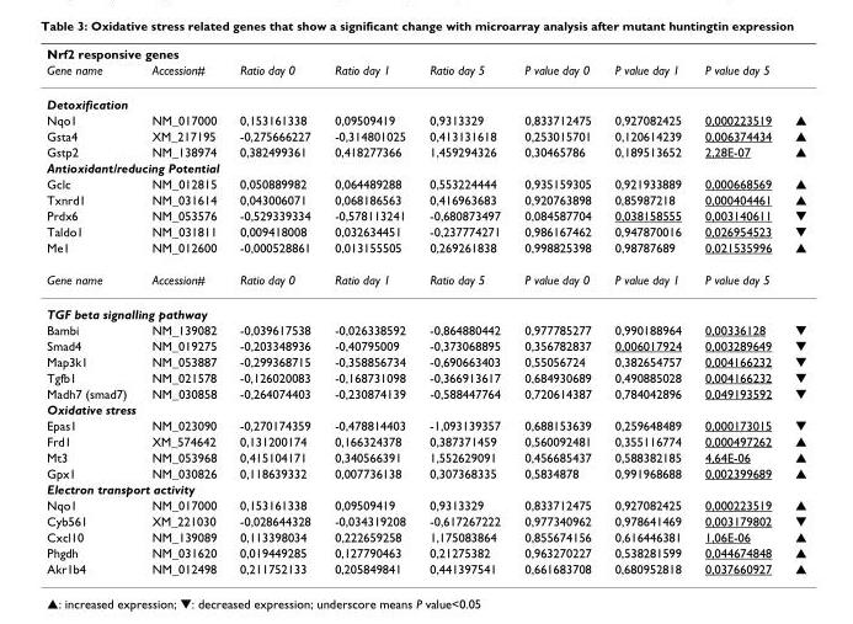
<table><thead><tr><td colspan="9">Nrf2 responsive genes</td></tr><tr><td>Gene name</td><td>Accession#</td><td>Ratio day 0</td><td>Ratio day 1</td><td>Ratio day 5</td><td>P value day 0</td><td>P value day 1</td><td>P value day 5</td><td></td></tr></thead><tbody><tr><td colspan="9">Detoxification</td></tr><tr><td>Nqo1</td><td>NM_017000</td><td>0,153161338</td><td>0,09509419</td><td>0,9313329</td><td>0,833712475</td><td>0,927082425</td><td>0,000223519</td><td>▲</td></tr><tr><td>Gsta4</td><td>XM_217195</td><td>-0,275666227</td><td>-0,314801025</td><td>0,413131618</td><td>0,253015701</td><td>0,120614239</td><td>0,006374434</td><td>▲</td></tr><tr><td>Gstp2</td><td>NM_138974</td><td>0,382499361</td><td>0,418277366</td><td>1,459294326</td><td>0,30465786</td><td>0,189513652</td><td>2,28E-07</td><td>▲</td></tr><tr><td colspan="9">Antioxidant/reducing Potential</td></tr><tr><td>Gclc</td><td>NM_012815</td><td>0,050889982</td><td>0,064489288</td><td>0,553224444</td><td>0,935159305</td><td>0,921933889</td><td>0,000668569</td><td>▲</td></tr><tr><td>Txnrd1</td><td>NM_031614</td><td>0,043006071</td><td>0,068186563</td><td>0,416963683</td><td>0,920763898</td><td>0,85987218</td><td>0,000404461</td><td>▲</td></tr><tr><td>Prdx6</td><td>NM_053576</td><td>-0,529339334</td><td>-0,578113241</td><td>-0,680873497</td><td>0,084587704</td><td>0,038158555</td><td>0,003140611</td><td>▼</td></tr><tr><td>Taldo1</td><td>NM_031811</td><td>0,009418008</td><td>0,032634451</td><td>-0,237774271</td><td>0,986167462</td><td>0,947870016</td><td>0,026954523</td><td>▼</td></tr><tr><td>Me1</td><td>NM_012600</td><td>-0,000528861</td><td>0,013155505</td><td>0,269261838</td><td>0,998825398</td><td>0,98787689</td><td>0,021535996</td><td>▲</td></tr><tr><td>Gene name</td><td>Accession#</td><td>Ratio day 0</td><td>Ratio day 1</td><td>Ratio day 5</td><td>P value day 0</td><td>P value day 1</td><td>P value day 5</td><td></td></tr><tr><td colspan="9">TGF beta signalling pathway</td></tr><tr><td>Bambi</td><td>NM_139082</td><td>-0,039617538</td><td>-0,026338592</td><td>-0,864880442</td><td>0,977785277</td><td>0,990188964</td><td>0,00336128</td><td>▼</td></tr><tr><td>Smad4</td><td>NM_019275</td><td>-0,203348936</td><td>-0,40795009</td><td>-0,373068895</td><td>0,356782837</td><td>0,006017924</td><td>0,003289649</td><td>▼</td></tr><tr><td>Map3k1</td><td>NM_053887</td><td>-0,299368715</td><td>-0,358856734</td><td>-0,690663403</td><td>0,55056724</td><td>0,382654757</td><td>0,004166232</td><td>▼</td></tr><tr><td>Tgfb1</td><td>NM_021578</td><td>-0,126020083</td><td>-0,168731098</td><td>-0,366913617</td><td>0,684930689</td><td>0,490885028</td><td>0,004166232</td><td>▼</td></tr><tr><td>Madh7 (smad7)</td><td>NM_030858</td><td>-0,264074403</td><td>-0,230874139</td><td>-0,588447764</td><td>0,720614387</td><td>0,784042896</td><td>0,049193592</td><td>▼</td></tr><tr><td colspan="9">Oxidative stress</td></tr><tr><td>Epas1</td><td>NM_023090</td><td>-0,270174359</td><td>-0,478814403</td><td>-1,093139357</td><td>0,688153639</td><td>0,259648489</td><td>0,000173015</td><td>▼</td></tr><tr><td>Frd1</td><td>XM_574642</td><td>0,131200174</td><td>0,166324378</td><td>0,387371459</td><td>0,560092481</td><td>0,355116774</td><td>0,000497262</td><td>▲</td></tr><tr><td>Mt3</td><td>NM_053968</td><td>0,415104171</td><td>0,340566391</td><td>1,552629091</td><td>0,456685437</td><td>0,588382185</td><td>4,64E-06</td><td>▲</td></tr><tr><td>Gpx1</td><td>NM_030826</td><td>0,118639332</td><td>0,007736138</td><td>0,307368335</td><td>0,5834878</td><td>0,991968688</td><td>0,002399689</td><td>▲</td></tr><tr><td colspan="9">Electron transport activity</td></tr><tr><td>Nqo1</td><td>NM_017000</td><td>0,153161338</td><td>0,09509419</td><td>0,9313329</td><td>0,833712475</td><td>0,927082425</td><td>0,000223519</td><td>▲</td></tr><tr><td>Cyb561</td><td>XM_221030</td><td>-0,028644328</td><td>-0,034319208</td><td>-0,617267222</td><td>0,977340962</td><td>0,978641469</td><td>0,003179802</td><td>▼</td></tr><tr><td>Cxcl10</td><td>NM_139089</td><td>0,113398034</td><td>0,222659258</td><td>1,175083864</td><td>0,855674156</td><td>0,616446381</td><td>1,06E-06</td><td>▲</td></tr><tr><td>Phgdh</td><td>NM_031620</td><td>0,019449285</td><td>0,127790463</td><td>0,21275382</td><td>0,963270227</td><td>0,538281599</td><td>0,044674848</td><td>▲</td></tr><tr><td>Akr1b4</td><td>NM_012498</td><td>0,211752133</td><td>0,205849841</td><td>0,441397541</td><td>0,661683708</td><td>0,680952818</td><td>0,037660927</td><td>▲</td></tr></tbody></table>